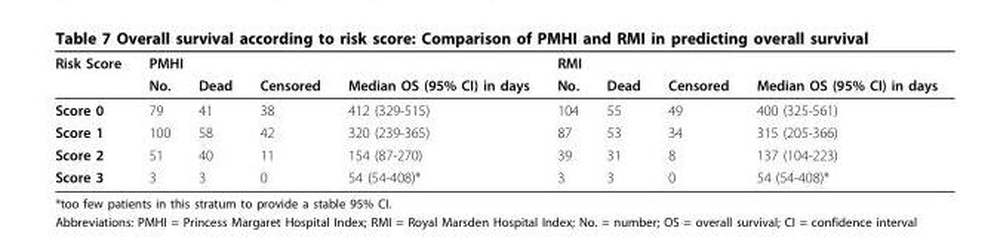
<table><thead><tr><td rowspan="2">Risk Score</td><td colspan="4">PMHI</td><td colspan="4">RMI</td></tr><tr><td>No.</td><td>Dead</td><td>Censored</td><td>Median OS (95% CI) in days</td><td>No.</td><td>Dead</td><td>Censored</td><td>Median OS (95% CI) in days</td></tr></thead><tbody><tr><td>Score 0</td><td>79</td><td>41</td><td>38</td><td>412 (329-515)</td><td>104</td><td>55</td><td>49</td><td>400 (325-561)</td></tr><tr><td>Score 1</td><td>100</td><td>58</td><td>42</td><td>320 (239-365)</td><td>87</td><td>53</td><td>34</td><td>315 (205-366)</td></tr><tr><td>Score 2</td><td>51</td><td>40</td><td>11</td><td>154 (87-270)</td><td>39</td><td>31</td><td>8</td><td>137 (104-223)</td></tr><tr><td>Score 3</td><td>3</td><td>3</td><td>0</td><td>54 (54-408)*</td><td>3</td><td>3</td><td>0</td><td>54 (54-408)*</td></tr></tbody></table>